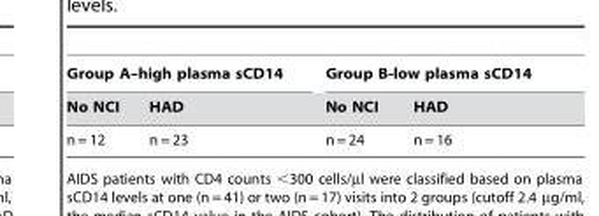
<table><thead><tr><td colspan="2">Group A–high plasma sCD14</td><td colspan="2">Group B-low plasma sCD14</td></tr><tr><td>No NCI</td><td>HAD</td><td>No NCI</td><td>HAD</td></tr></thead><tbody><tr><td>n = 12</td><td>n = 23</td><td>n = 24</td><td>n = 16</td></tr></tbody></table>